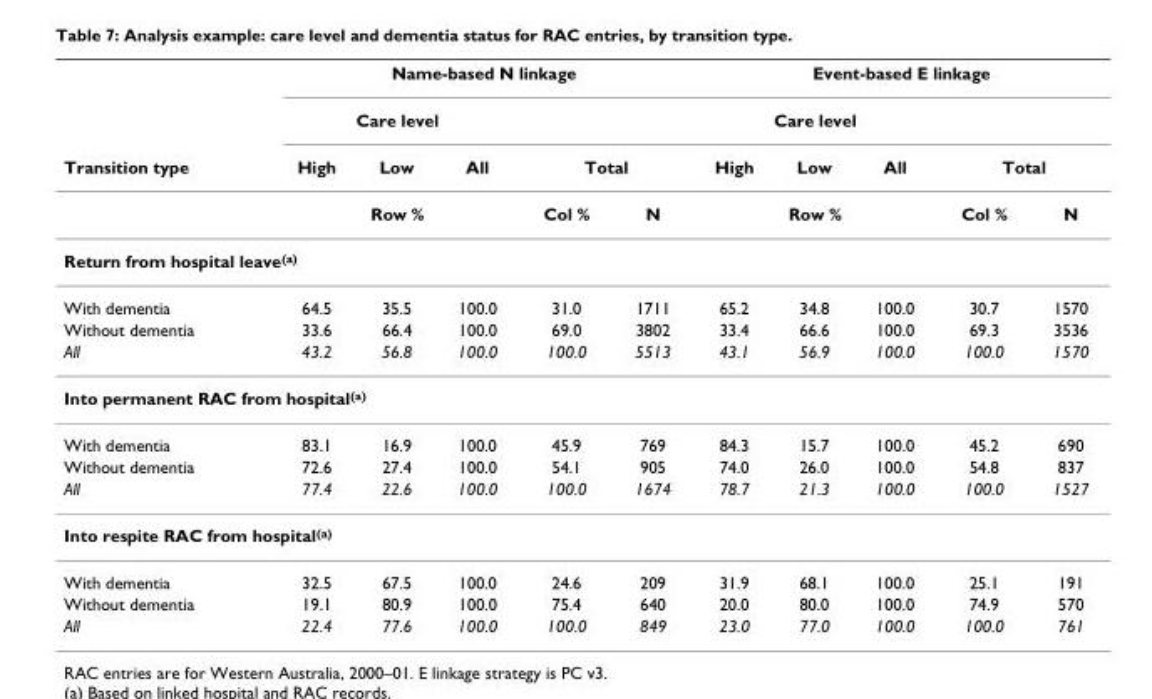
<table><thead><tr><td rowspan="3">Transition type</td><td colspan="5">Name-based N linkage</td><td colspan="5">Event-based E linkage</td></tr><tr><td colspan="3">Care level</td><td></td><td></td><td colspan="3">Care level</td><td></td><td></td></tr><tr><td>High</td><td>Low</td><td>All</td><td colspan="2">Total</td><td>High</td><td>Low</td><td>All</td><td colspan="2">Total</td></tr></thead><tbody><tr><td></td><td colspan="3">Row %</td><td>Col %</td><td>N</td><td colspan="3">Row %</td><td>Col %</td><td>N</td></tr><tr><td colspan="11">Return from hospital leave<sup>(a)</sup></td></tr><tr><td>With dementia</td><td>64.5</td><td>35.5</td><td>100.0</td><td>31.0</td><td>1711</td><td>65.2</td><td>34.8</td><td>100.0</td><td>30.7</td><td>1570</td></tr><tr><td>Without dementia</td><td>33.6</td><td>66.4</td><td>100.0</td><td>69.0</td><td>3802</td><td>33.4</td><td>66.6</td><td>100.0</td><td>69.3</td><td>3536</td></tr><tr><td>All</td><td>43.2</td><td>56.8</td><td>100.0</td><td>100.0</td><td>5513</td><td>43.1</td><td>56.9</td><td>100.0</td><td>100.0</td><td>1570</td></tr><tr><td colspan="11">Into permanent RAC from hospital<sup>(a)</sup></td></tr><tr><td>With dementia</td><td>83.1</td><td>16.9</td><td>100.0</td><td>45.9</td><td>769</td><td>84.3</td><td>15.7</td><td>100.0</td><td>45.2</td><td>690</td></tr><tr><td>Without dementia</td><td>72.6</td><td>27.4</td><td>100.0</td><td>54.1</td><td>905</td><td>74.0</td><td>26.0</td><td>100.0</td><td>54.8</td><td>837</td></tr><tr><td>All</td><td>77.4</td><td>22.6</td><td>100.0</td><td>100.0</td><td>1674</td><td>78.7</td><td>21.3</td><td>100.0</td><td>100.0</td><td>1527</td></tr><tr><td colspan="11">Into respite RAC from hospital<sup>(a)</sup></td></tr><tr><td>With dementia</td><td>32.5</td><td>67.5</td><td>100.0</td><td>24.6</td><td>209</td><td>31.9</td><td>68.1</td><td>100.0</td><td>25.1</td><td>191</td></tr><tr><td>Without dementia</td><td>19.1</td><td>80.9</td><td>100.0</td><td>75.4</td><td>640</td><td>20.0</td><td>80.0</td><td>100.0</td><td>74.9</td><td>570</td></tr><tr><td>All</td><td>22.4</td><td>77.6</td><td>100.0</td><td>100.0</td><td>849</td><td>23.0</td><td>77.0</td><td>100.0</td><td>100.0</td><td>761</td></tr></tbody></table>